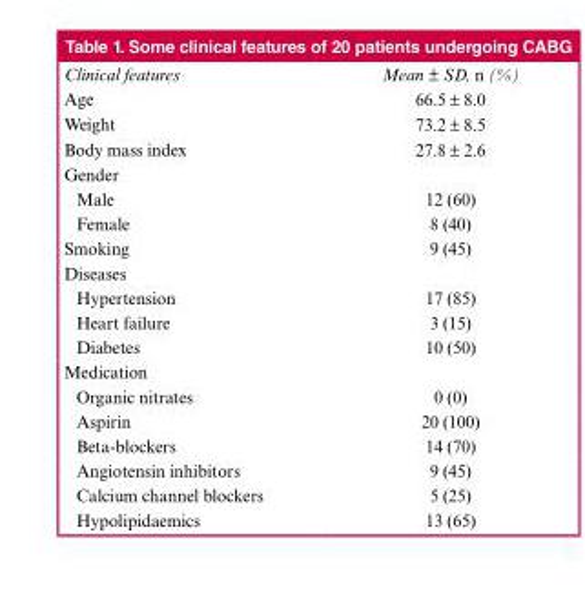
<table><thead><tr><td>Clinical features</td><td>Mean ± SD, n (%)</td></tr></thead><tbody><tr><td>Age</td><td>66.5 ± 8.0</td></tr><tr><td>Weight</td><td>73.2 ± 8.5</td></tr><tr><td>Body mass index</td><td>27.8 ± 2.6</td></tr><tr><td colspan="2">Gender</td></tr><tr><td>Male</td><td>12 (60)</td></tr><tr><td>Female</td><td>8 (40)</td></tr><tr><td>Smoking</td><td>9 (45)</td></tr><tr><td colspan="2">Diseases</td></tr><tr><td>Hypertension</td><td>17 (85)</td></tr><tr><td>Heart failure</td><td>3 (15)</td></tr><tr><td>Diabetes</td><td>10 (50)</td></tr><tr><td colspan="2">Medication</td></tr><tr><td>Organic nitrates</td><td>0 (0)</td></tr><tr><td>Aspirin</td><td>20 (100)</td></tr><tr><td>Beta-blockers</td><td>14 (70)</td></tr><tr><td>Angiotensin inhibitors</td><td>9 (45)</td></tr><tr><td>Calcium channel blockers</td><td>5 (25)</td></tr><tr><td>Hypolipidaemics</td><td>13 (65)</td></tr></tbody></table>